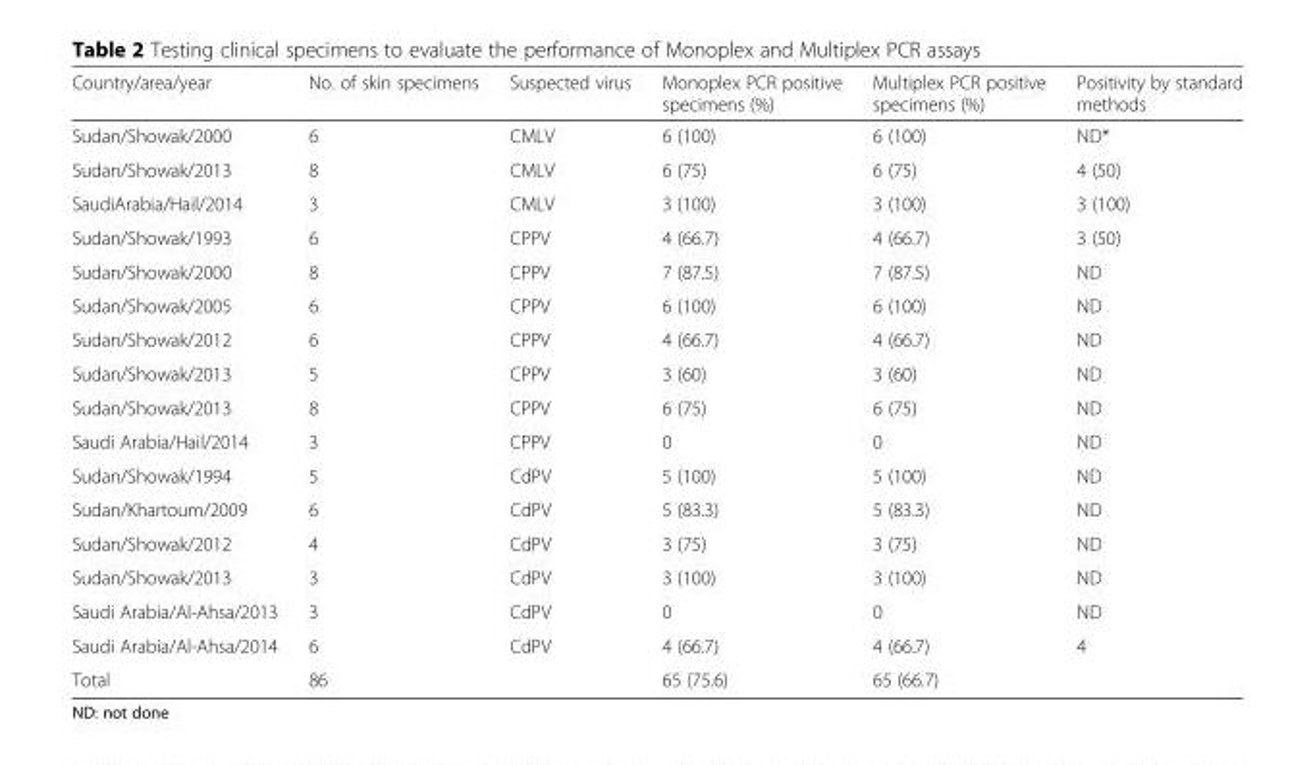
<table><thead><tr><td>Country/area/year</td><td>No. of skin specimens</td><td>Suspected virus</td><td>Monoplex PCR positive specimens (%)</td><td>Multiplex PCR positive specimens (%)</td><td>Positivity by standard methods</td></tr></thead><tbody><tr><td>Sudan/Showak/2000</td><td>6</td><td>CMLV</td><td>6 (100)</td><td>6 (100)</td><td>ND*</td></tr><tr><td>Sudan/Showak/2013</td><td>8</td><td>CMLV</td><td>6 (75)</td><td>6 (75)</td><td>4 (50)</td></tr><tr><td>SaudiArabia/Hail/2014</td><td>3</td><td>CMLV</td><td>3 (100)</td><td>3 (100)</td><td>3 (100)</td></tr><tr><td>Sudan/Showak/1993</td><td>6</td><td>CPPV</td><td>4 (66.7)</td><td>4 (66.7)</td><td>3 (50)</td></tr><tr><td>Sudan/Showak/2000</td><td>8</td><td>CPPV</td><td>7 (87.5)</td><td>7 (87.5)</td><td>ND</td></tr><tr><td>Sudan/Showak/2005</td><td>6</td><td>CPPV</td><td>6 (100)</td><td>6 (100)</td><td>ND</td></tr><tr><td>Sudan/Showak/2012</td><td>6</td><td>CPPV</td><td>4 (66.7)</td><td>4 (66.7)</td><td>ND</td></tr><tr><td>Sudan/Showak/2013</td><td>5</td><td>CPPV</td><td>3 (60)</td><td>3 (60)</td><td>ND</td></tr><tr><td>Sudan/Showak/2013</td><td>8</td><td>CPPV</td><td>6 (75)</td><td>6 (75)</td><td>ND</td></tr><tr><td>Saudi Arabia/Hail/2014</td><td>3</td><td>CPPV</td><td>0</td><td>0</td><td>ND</td></tr><tr><td>Sudan/Showak/1994</td><td>5</td><td>CdPV</td><td>5 (100)</td><td>5 (100)</td><td>ND</td></tr><tr><td>Sudan/Khartoum/2009</td><td>6</td><td>CdPV</td><td>5 (83.3)</td><td>5 (83.3)</td><td>ND</td></tr><tr><td>Sudan/Showak/2012</td><td>4</td><td>CdPV</td><td>3 (75)</td><td>3 (75)</td><td>ND</td></tr><tr><td>Sudan/Showak/2013</td><td>3</td><td>CdPV</td><td>3 (100)</td><td>3 (100)</td><td>ND</td></tr><tr><td>Saudi Arabia/Al-Ahsa/2013</td><td>3</td><td>CdPV</td><td>0</td><td>0</td><td>ND</td></tr><tr><td>Saudi Arabia/Al-Ahsa/2014</td><td>6</td><td>CdPV</td><td>4 (66.7)</td><td>4 (66.7)</td><td>4</td></tr><tr><td>Total</td><td>86</td><td></td><td>65 (75.6)</td><td>65 (66.7)</td><td></td></tr></tbody></table>